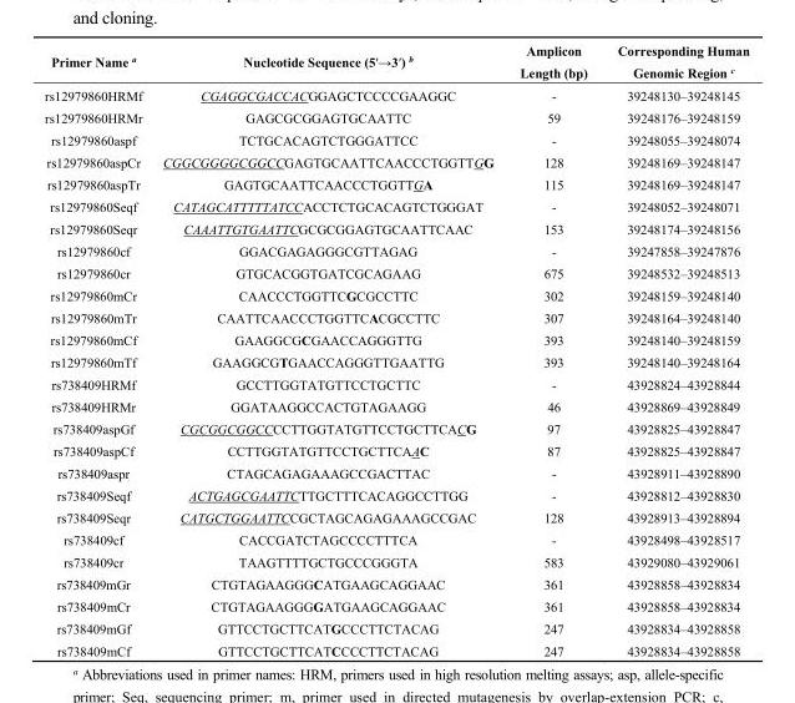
<table><thead><tr><td>Primer Name <sup>a</sup></td><td>Nucleotide Sequence (5′→3′) <sup>b</sup></td><td>Amplicon Length (bp)</td><td>Corresponding Human Genomic Region <sup>c</sup></td></tr></thead><tbody><tr><td>rs12979860HRMf</td><td>CGAGGCGACCACGGAGCTCCCCGAAGGC</td><td>-</td><td>39248130–39248145</td></tr><tr><td>rs12979860HRMr</td><td>GAGCGCGGAGTGCAATTC</td><td>59</td><td>39248176–39248159</td></tr><tr><td>rs12979860aspf</td><td>TCTGCACAGTCTGGGATTCC</td><td>-</td><td>39248055–39248074</td></tr><tr><td>rs12979860aspCr</td><td>CGGCGGGGCGGCCGAGTGCAATTCAACCCTGGTTGG</td><td>128</td><td>39248169–39248147</td></tr><tr><td>rs12979860aspTr</td><td>GAGTGCAATTCAACCCTGGTTGA</td><td>115</td><td>39248169–39248147</td></tr><tr><td>rs12979860Seqf</td><td>CATAGCATTTTTATCCACCTCTGCACAGTCTGGGAT</td><td>-</td><td>39248052–39248071</td></tr><tr><td>rs12979860Seqr</td><td>CAAATTGTGAATTCGCGCGGAGTGCAATTCAAC</td><td>153</td><td>39248174–39248156</td></tr><tr><td>rs12979860cf</td><td>GGACGAGAGGGCGTTAGAG</td><td>-</td><td>39247858–39247876</td></tr><tr><td>rs12979860cr</td><td>GTGCACGGTGATCGCAGAAG</td><td>675</td><td>39248532–39248513</td></tr><tr><td>rs12979860mCr</td><td>CAACCCTGGTTCGCGCCTTC</td><td>302</td><td>39248159–39248140</td></tr><tr><td>rs12979860mTr</td><td>CAATTCAACCCTGGTTCACGCCTTC</td><td>307</td><td>39248164–39248140</td></tr><tr><td>rs12979860mCf</td><td>GAAGGCGCGAACCAGGGTTG</td><td>393</td><td>39248140–39248159</td></tr><tr><td>rs12979860mTf</td><td>GAAGGCGTGAACCAGGGTTGAATTG</td><td>393</td><td>39248140–39248164</td></tr><tr><td>rs738409HRMf</td><td>GCCTTGGTATGTTCCTGCTTC</td><td>-</td><td>43928824–43928844</td></tr><tr><td>rs738409HRMr</td><td>GGATAAGGCCACTGTAGAAGG</td><td>46</td><td>43928869–43928849</td></tr><tr><td>rs738409aspGf</td><td>CGCGGCGGCCCCTTGGTATGTTCCTGCTTCACG</td><td>97</td><td>43928825–43928847</td></tr><tr><td>rs738409aspCf</td><td>CCTTGGTATGTTCCTGCTTCAAC</td><td>87</td><td>43928825–43928847</td></tr><tr><td>rs738409aspr</td><td>CTAGCAGAGAAAGCCGACTTAC</td><td>-</td><td>43928911–43928890</td></tr><tr><td>rs738409Seqf</td><td>ACTGAGCGAATTCTTGCTTTCACAGGCCTTGG</td><td>-</td><td>43928812–43928830</td></tr><tr><td>rs738409Seqr</td><td>CATGCTGGAATTCCGCTAGCAGAGAAAGCCGAC</td><td>128</td><td>43928913–43928894</td></tr><tr><td>rs738409cf</td><td>CACCGATCTAGCCCCTTTCA</td><td>-</td><td>43928498–43928517</td></tr><tr><td>rs738409cr</td><td>TAAGTTTTGCTGCCCGGGTA</td><td>583</td><td>43929080–43929061</td></tr><tr><td>rs738409mGr</td><td>CTGTAGAAGGGCATGAAGCAGGAAC</td><td>361</td><td>43928858–43928834</td></tr><tr><td>rs738409mCr</td><td>CTGTAGAAGGGGATGAAGCAGGAAC</td><td>361</td><td>43928858–43928834</td></tr><tr><td>rs738409mGf</td><td>GTTCCTGCTTCATGCCCTTCTACAG</td><td>247</td><td>43928834–43928858</td></tr><tr><td>rs738409mCf</td><td>GTTCCTGCTTCATCCCCTTCTACAG</td><td>247</td><td>43928834–43928858</td></tr></tbody></table>